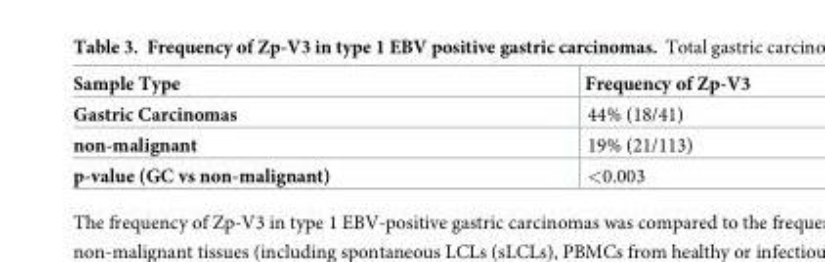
<table><thead><tr><td>Sample Type</td><td>Frequency of Zp-V3</td></tr></thead><tbody><tr><td>Gastric Carcinomas</td><td>44% (18/41)</td></tr><tr><td>non-malignant</td><td>19% (21/113)</td></tr><tr><td>p-value (GC vs non-malignant)</td><td>&lt;0.003</td></tr></tbody></table>